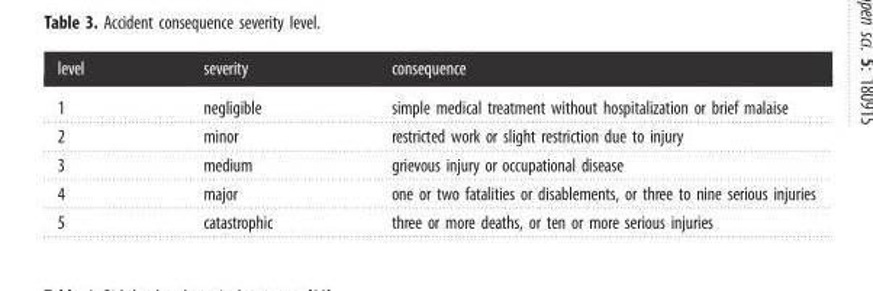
<table><thead><tr><td>level</td><td>severity</td><td>consequence</td></tr></thead><tbody><tr><td>1</td><td>negligible</td><td>simple medical treatment without hospitalization or brief malaise</td></tr><tr><td>2</td><td>minor</td><td>restricted work or slight restriction due to injury</td></tr><tr><td>3</td><td>medium</td><td>grievous injury or occupational disease</td></tr><tr><td>4</td><td>major</td><td>one or two fatalities or disablements, or three to nine serious injuries</td></tr><tr><td>5</td><td>catastrophic</td><td>three or more deaths, or ten or more serious injuries</td></tr></tbody></table>